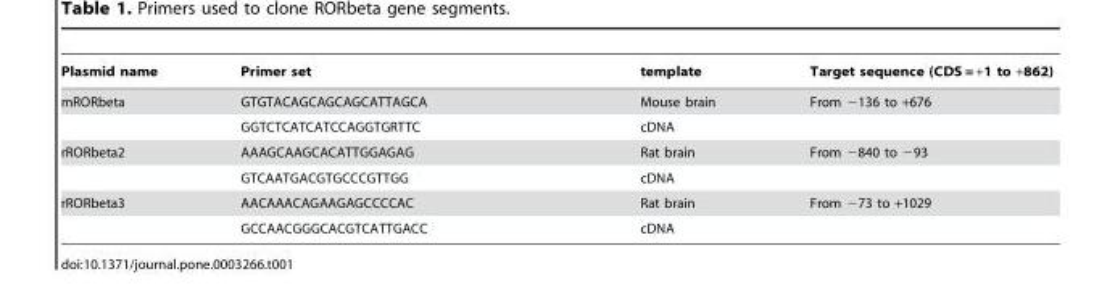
<table><thead><tr><td>Plasmid name</td><td>Primer set</td><td>template</td><td>Target sequence (CDS = +1 to +862)</td></tr></thead><tbody><tr><td rowspan="2">mRORbeta</td><td>GTGTACAGCAGCAGCATTAGCA</td><td>Mouse brain</td><td>From −136 to +676</td></tr><tr><td>GGTCTCATCATCCAGGTGRTTC</td><td>cDNA</td><td></td></tr><tr><td rowspan="2">rRORbeta2</td><td>AAAGCAAGCACATTGGAGAG</td><td>Rat brain</td><td>From −840 to −93</td></tr><tr><td>GTCAATGACGTGCCCGTTGG</td><td>cDNA</td><td></td></tr><tr><td rowspan="2">rRORbeta3</td><td>AACAAACAGAAGAGCCCCAC</td><td>Rat brain</td><td>From −73 to +1029</td></tr><tr><td>GCCAACGGGCACGTCATTGACC</td><td>cDNA</td><td></td></tr></tbody></table>